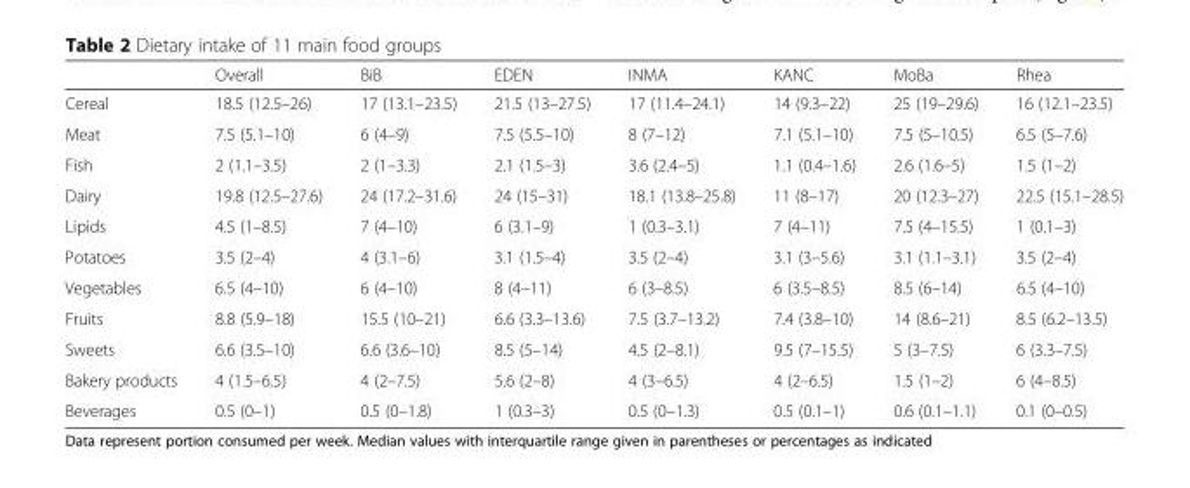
<table><thead><tr><td></td><td>Overall</td><td>BiB</td><td>EDEN</td><td>INMA</td><td>KANC</td><td>MoBa</td><td>Rhea</td></tr></thead><tbody><tr><td>Cereal</td><td>18.5 (12.5–26)</td><td>17 (13.1–23.5)</td><td>21.5 (13–27.5)</td><td>17 (11.4–24.1)</td><td>14 (9.3–22)</td><td>25 (19–29.6)</td><td>16 (12.1–23.5)</td></tr><tr><td>Meat</td><td>7.5 (5.1–10)</td><td>6 (4–9)</td><td>7.5 (5.5–10)</td><td>8 (7–12)</td><td>7.1 (5.1–10)</td><td>7.5 (5–10.5)</td><td>6.5 (5–7.6)</td></tr><tr><td>Fish</td><td>2 (1.1–3.5)</td><td>2 (1–3.3)</td><td>2.1 (1.5–3)</td><td>3.6 (2.4–5)</td><td>1.1 (0.4–1.6)</td><td>2.6 (1.6–5)</td><td>1.5 (1–2)</td></tr><tr><td>Dairy</td><td>19.8 (12.5–27.6)</td><td>24 (17.2–31.6)</td><td>24 (15–31)</td><td>18.1 (13.8–25.8)</td><td>11 (8–17)</td><td>20 (12.3–27)</td><td>22.5 (15.1–28.5)</td></tr><tr><td>Lipids</td><td>4.5 (1–8.5)</td><td>7 (4–10)</td><td>6 (3.1–9)</td><td>1 (0.3–3.1)</td><td>7 (4–11)</td><td>7.5 (4–15.5)</td><td>1 (0.1–3)</td></tr><tr><td>Potatoes</td><td>3.5 (2–4)</td><td>4 (3.1–6)</td><td>3.1 (1.5–4)</td><td>3.5 (2–4)</td><td>3.1 (3–5.6)</td><td>3.1 (1.1–3.1)</td><td>3.5 (2–4)</td></tr><tr><td>Vegetables</td><td>6.5 (4–10)</td><td>6 (4–10)</td><td>8 (4–11)</td><td>6 (3–8.5)</td><td>6 (3.5–8.5)</td><td>8.5 (6–14)</td><td>6.5 (4–10)</td></tr><tr><td>Fruits</td><td>8.8 (5.9–18)</td><td>15.5 (10–21)</td><td>6.6 (3.3–13.6)</td><td>7.5 (3.7–13.2)</td><td>7.4 (3.8–10)</td><td>14 (8.6–21)</td><td>8.5 (6.2–13.5)</td></tr><tr><td>Sweets</td><td>6.6 (3.5–10)</td><td>6.6 (3.6–10)</td><td>8.5 (5–14)</td><td>4.5 (2–8.1)</td><td>9.5 (7–15.5)</td><td>5 (3–7.5)</td><td>6 (3.3–7.5)</td></tr><tr><td>Bakery products</td><td>4 (1.5–6.5)</td><td>4 (2–7.5)</td><td>5.6 (2–8)</td><td>4 (3–6.5)</td><td>4 (2–6.5)</td><td>1.5 (1–2)</td><td>6 (4–8.5)</td></tr><tr><td>Beverages</td><td>0.5 (0–1)</td><td>0.5 (0–1.8)</td><td>1 (0.3–3)</td><td>0.5 (0–1.3)</td><td>0.5 (0.1–1)</td><td>0.6 (0.1–1.1)</td><td>0.1 (0–0.5)</td></tr></tbody></table>